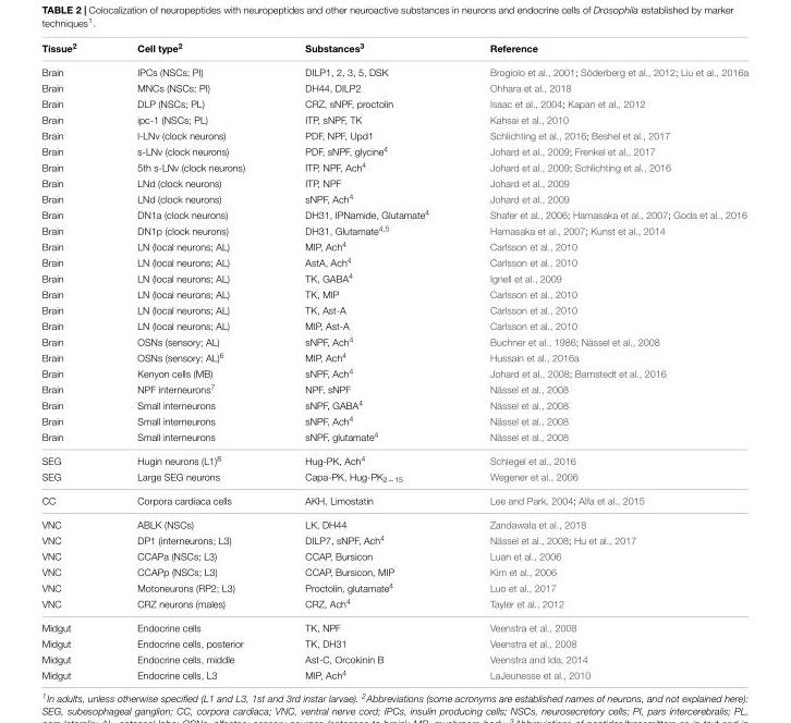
<table><thead><tr><td>Tissue<sup>2</sup></td><td>Cell type<sup>2</sup></td><td>Substances<sup>3</sup></td><td>Reference</td></tr></thead><tbody><tr><td>Brain</td><td>IPCs (NSCs; PI)</td><td>DILP1, 2, 3, 5, DSK</td><td>Brogiolo et al., 2001; Söderberg et al., 2012; Liu et al., 2016a</td></tr><tr><td>Brain</td><td>MNCs (NSCs; PI)</td><td>DH44, DILP2</td><td>Ohhara et al., 2018</td></tr><tr><td>Brain</td><td>DLP (NSCs; PL)</td><td>CRZ, sNPF, proctolin</td><td>Isaac et al., 2004; Kapan et al., 2012</td></tr><tr><td>Brain</td><td>ipc-1 (NSCs; PL)</td><td>ITP, sNPF, TK</td><td>Kahsai et al., 2010</td></tr><tr><td>Brain</td><td>l-LNv (clock neurons)</td><td>PDF, NPF, Upd1</td><td>Schlichting et al., 2016; Beshel et al., 2017</td></tr><tr><td>Brain</td><td>s-LNv (clock neurons)</td><td>PDF, sNPF, glycine<sup>4</sup></td><td>Johard et al., 2009; Frenkel et al., 2017</td></tr><tr><td>Brain</td><td>5th s-LNv (clock neurons)</td><td>ITP, NPF, Ach<sup>4</sup></td><td>Johard et al., 2009; Schlichting et al., 2016</td></tr><tr><td>Brain</td><td>LNd (clock neurons)</td><td>ITP, NPF</td><td>Johard et al., 2009</td></tr><tr><td>Brain</td><td>LNd (clock neurons)</td><td>sNPF, Ach<sup>4</sup></td><td>Johard et al., 2009</td></tr><tr><td>Brain</td><td>DN1a (clock neurons)</td><td>DH31, IPNamide, Glutamate<sup>4</sup></td><td>Shafer et al., 2006; Hamasaka et al., 2007; Goda et al., 2016</td></tr><tr><td>Brain</td><td>DN1p (clock neurons)</td><td>DH31, Glutamate<sup>4,5</sup></td><td>Hamasaka et al., 2007; Kunst et al., 2014</td></tr><tr><td>Brain</td><td>LN (local neurons; AL)</td><td>MIP, Ach<sup>4</sup></td><td>Carlsson et al., 2010</td></tr><tr><td>Brain</td><td>LN (local neurons; AL)</td><td>AstA, Ach<sup>4</sup></td><td>Carlsson et al., 2010</td></tr><tr><td>Brain</td><td>LN (local neurons; AL)</td><td>TK, GABA<sup>4</sup></td><td>Ignell et al., 2009</td></tr><tr><td>Brain</td><td>LN (local neurons; AL)</td><td>TK, MIP</td><td>Carlsson et al., 2010</td></tr><tr><td>Brain</td><td>LN (local neurons; AL)</td><td>TK, Ast-A</td><td>Carlsson et al., 2010</td></tr><tr><td>Brain</td><td>LN (local neurons; AL)</td><td>MIP, Ast-A</td><td>Carlsson et al., 2010</td></tr><tr><td>Brain</td><td>OSNs (sensory; AL)</td><td>sNPF, Ach<sup>4</sup></td><td>Buchner et al., 1986; Nässel et al., 2008</td></tr><tr><td>Brain</td><td>OSNs (sensory; AL)<sup>6</sup></td><td>MIP, Ach<sup>4</sup></td><td>Hussain et al., 2016a</td></tr><tr><td>Brain</td><td>Kenyon cells (MB)</td><td>sNPF, Ach<sup>4</sup></td><td>Johard et al., 2008; Barnstedt et al., 2016</td></tr><tr><td>Brain</td><td>NPF interneurons<sup>7</sup></td><td>NPF, sNPF</td><td>Nässel et al., 2008</td></tr><tr><td>Brain</td><td>Small interneurons</td><td>sNPF, GABA<sup>4</sup></td><td>Nässel et al., 2008</td></tr><tr><td>Brain</td><td>Small interneurons</td><td>sNPF, Ach<sup>4</sup></td><td>Nässel et al., 2008</td></tr><tr><td>Brain</td><td>Small interneurons</td><td>sNPF, glutamate<sup>4</sup></td><td>Nässel et al., 2008</td></tr><tr><td>SEG</td><td>Hugin neurons (L1)<sup>8</sup></td><td>Hug-PK, Ach<sup>4</sup></td><td>Schlegel et al., 2016</td></tr><tr><td>SEG</td><td>Large SEG neurons</td><td>Capa-PK, Hug-PK<sub>2−15</sub></td><td>Wegener et al., 2006</td></tr><tr><td>CC</td><td>Corpora cardiaca cells</td><td>AKH, Limostatin</td><td>Lee and Park, 2004; Alfa et al., 2015</td></tr><tr><td>VNC</td><td>ABLK (NSCs)</td><td>LK, DH44</td><td>Zandawala et al., 2018</td></tr><tr><td>VNC</td><td>DP1 (interneurons; L3)</td><td>DILP7, sNPF, Ach<sup>4</sup></td><td>Nässel et al., 2008; Hu et al., 2017</td></tr><tr><td>VNC</td><td>CCAPa (NSCs; L3)</td><td>CCAP, Bursicon</td><td>Luan et al., 2006</td></tr><tr><td>VNC</td><td>CCAPp (NSCs; L3)</td><td>CCAP, Bursicon, MIP</td><td>Kim et al., 2006</td></tr><tr><td>VNC</td><td>Motoneurons (RP2; L3)</td><td>Proctolin, glutamate<sup>4</sup></td><td>Luo et al., 2017</td></tr><tr><td>VNC</td><td>CRZ neurons (males)</td><td>CRZ, Ach<sup>4</sup></td><td>Tayler et al., 2012</td></tr><tr><td>Midgut</td><td>Endocrine cells</td><td>TK, NPF</td><td>Veenstra et al., 2008</td></tr><tr><td>Midgut</td><td>Endocrine cells, posterior</td><td>TK, DH31</td><td>Veenstra et al., 2008</td></tr><tr><td>Midgut</td><td>Endocrine cells, middle</td><td>Ast-C, Orcokinin B</td><td>Veenstra and Ida, 2014</td></tr><tr><td>Midgut</td><td>Endocrine cells, L3</td><td>MIP, Ach<sup>4</sup></td><td>LaJeunesse et al., 2010</td></tr></tbody></table>